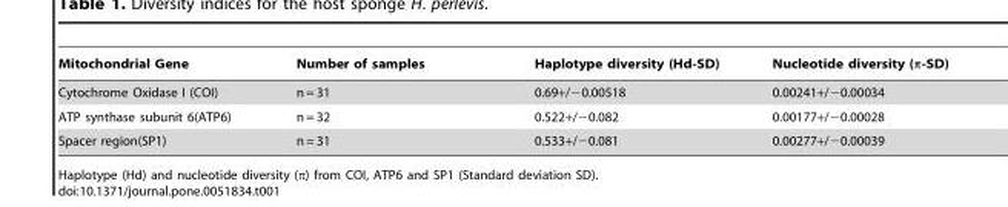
<table><thead><tr><td>Mitochondrial Gene</td><td>Number of samples</td><td>Haplotype diversity (Hd-SD)</td><td>Nucleotide diversity (π-SD)</td></tr></thead><tbody><tr><td>Cytochrome Oxidase I (COI)</td><td>n = 31</td><td>0.69+/−0.00518</td><td>0.00241+/−0.00034</td></tr><tr><td>ATP synthase subunit 6(ATP6)</td><td>n = 32</td><td>0.522+/−0.082</td><td>0.00177+/−0.00028</td></tr><tr><td>Spacer region(SP1)</td><td>n = 31</td><td>0.533+/−0.081</td><td>0.00277+/−0.00039</td></tr></tbody></table>